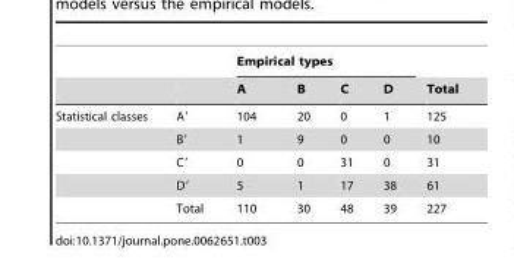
<table><thead><tr><td rowspan="2"></td><td rowspan="2"></td><td colspan="4">Empirical types</td><td rowspan="2">Total</td></tr><tr><td>A</td><td>B</td><td>C</td><td>D</td></tr></thead><tbody><tr><td rowspan="5">Statistical classes</td><td>A′</td><td>104</td><td>20</td><td>0</td><td>1</td><td>125</td></tr><tr><td>B′</td><td>1</td><td>9</td><td>0</td><td>0</td><td>10</td></tr><tr><td>C′</td><td>0</td><td>0</td><td>31</td><td>0</td><td>31</td></tr><tr><td>D′</td><td>5</td><td>1</td><td>17</td><td>38</td><td>61</td></tr><tr><td>Total</td><td>110</td><td>30</td><td>48</td><td>39</td><td>227</td></tr></tbody></table>